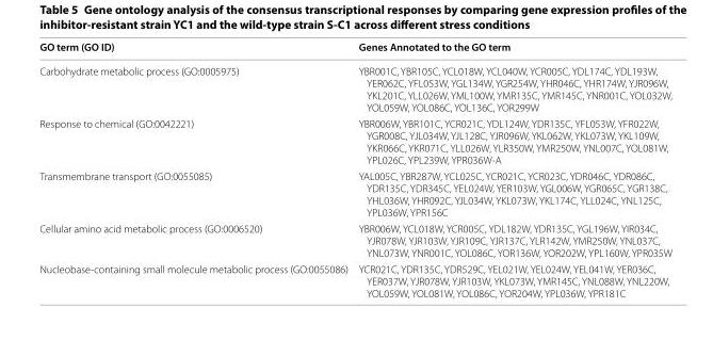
<table><thead><tr><td>GO term (GO ID)</td><td>Genes Annotated to the GO term</td></tr></thead><tbody><tr><td>Carbohydrate metabolic process (GO:0005975)</td><td>YBR001C, YBR105C, YCL018W, YCL040W, YCR005C, YDL174C, YDL193W, YER062C, YFL053W, YGL134W, YGR254W, YHR046C, YHR174W, YJR096W, YKL201C, YLL026W, YML100W, YMR135C, YMR145C, YNR001C, YOL032W, YOL059W, YOL086C, YOL136C, YOR299W</td></tr><tr><td>Response to chemical (GO:0042221)</td><td>YBR006W, YBR101C, YCR021C, YDL124W, YDR135C, YFL053W, YFR022W, YGR008C, YJL034W, YJL128C, YJR096W, YKL062W, YKL073W, YKL109W, YKR066C, YKR071C, YLL026W, YLR350W, YMR250W, YNL007C, YOL081W, YPL026C, YPL239W, YPR036W-A</td></tr><tr><td>Transmembrane transport (GO:0055085)</td><td>YAL005C, YBR287W, YCL025C, YCR021C, YCR023C, YDR046C, YDR086C, YDR135C, YDR345C, YEL024W, YER103W, YGL006W, YGR065C, YGR138C, YHL036W, YHR092C, YJL034W, YKL073W, YKL174C, YLL024C, YNL125C, YPL036W, YPR156C</td></tr><tr><td>Cellular amino acid metabolic process (GO:0006520)</td><td>YBR006W, YCL018W, YCR005C, YDL182W, YDR135C, YGL196W, YIR034C, YJR078W, YJR103W, YJR109C, YJR137C, YLR142W, YMR250W, YNL037C, YNL073W, YNR001C, YOL086C, YOR136W, YOR202W, YPL160W, YPR035W</td></tr><tr><td>Nucleobase-containing small molecule metabolic process (GO:0055086)</td><td>YCR021C, YDR135C, YDR529C, YEL021W, YEL024W, YEL041W, YER036C, YER037W, YJR078W, YJR103W, YKL073W, YMR145C, YNL088W, YNL220W, YOL059W, YOL081W, YOL086C, YOR204W, YPL036W, YPR181C</td></tr></tbody></table>